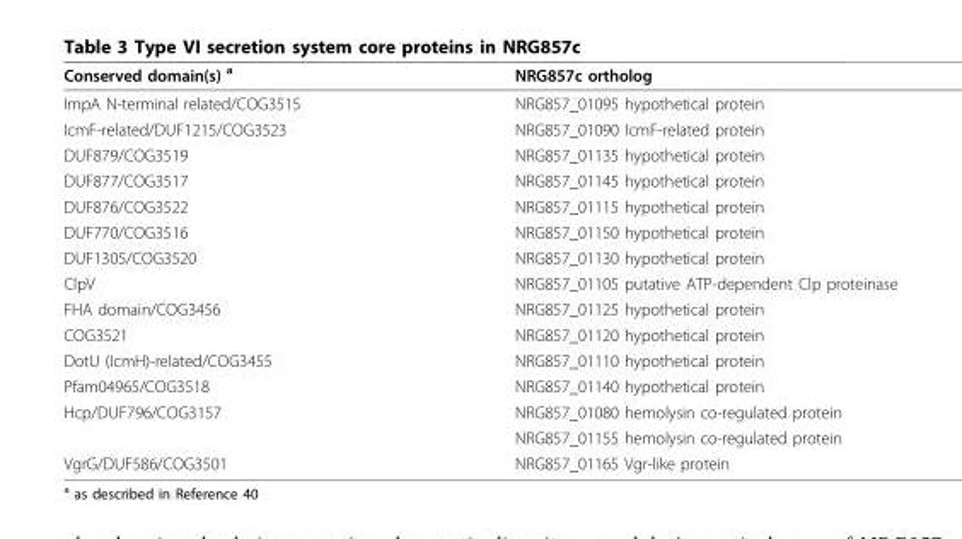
<table><thead><tr><td>Conserved domain(s) <sup>a</sup></td><td>NRG857c ortholog</td></tr></thead><tbody><tr><td>ImpA N-terminal related/COG3515</td><td>NRG857_01095 hypothetical protein</td></tr><tr><td>IcmF-related/DUF1215/COG3523</td><td>NRG857_01090 IcmF-related protein</td></tr><tr><td>DUF879/COG3519</td><td>NRG857_01135 hypothetical protein</td></tr><tr><td>DUF877/COG3517</td><td>NRG857_01145 hypothetical protein</td></tr><tr><td>DUF876/COG3522</td><td>NRG857_01115 hypothetical protein</td></tr><tr><td>DUF770/COG3516</td><td>NRG857_01150 hypothetical protein</td></tr><tr><td>DUF1305/COG3520</td><td>NRG857_01130 hypothetical protein</td></tr><tr><td>ClpV</td><td>NRG857_01105 putative ATP-dependent Clp proteinase</td></tr><tr><td>FHA domain/COG3456</td><td>NRG857_01125 hypothetical protein</td></tr><tr><td>COG3521</td><td>NRG857_01120 hypothetical protein</td></tr><tr><td>DotU (IcmH)-related/COG3455</td><td>NRG857_01110 hypothetical protein</td></tr><tr><td>Pfam04965/COG3518</td><td>NRG857_01140 hypothetical protein</td></tr><tr><td rowspan="2">Hcp/DUF796/COG3157</td><td>NRG857_01080 hemolysin co-regulated protein</td></tr><tr><td>NRG857_01155 hemolysin co-regulated protein</td></tr><tr><td>VgrG/DUF586/COG3501</td><td>NRG857_01165 Vgr-like protein</td></tr></tbody></table>